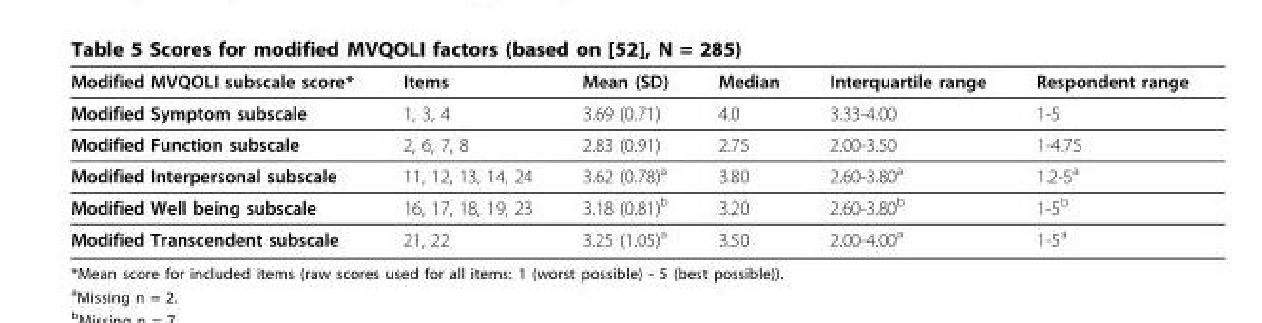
<table><thead><tr><td>Modified MVQOLI subscale score*</td><td>Items</td><td>Mean (SD)</td><td>Median</td><td>Interquartile range</td><td>Respondent range</td></tr></thead><tbody><tr><td>Modified Symptom subscale</td><td>1, 3, 4</td><td>3.69 (0.71)</td><td>4.0</td><td>3.33-4.00</td><td>1-5</td></tr><tr><td>Modified Function subscale</td><td>2, 6, 7, 8</td><td>2.83 (0.91)</td><td>2.75</td><td>2.00-3.50</td><td>1-4.75</td></tr><tr><td>Modified Interpersonal subscale</td><td>11, 12, 13, 14, 24</td><td>3.62 (0.78)<sup>a</sup></td><td>3.80</td><td>2.60-3.80<sup>a</sup></td><td>1.2-5<sup>a</sup></td></tr><tr><td>Modified Well being subscale</td><td>16, 17, 18, 19, 23</td><td>3.18 (0.81)<sup>b</sup></td><td>3.20</td><td>2.60-3.80<sup>b</sup></td><td>1-5<sup>b</sup></td></tr><tr><td>Modified Transcendent subscale</td><td>21, 22</td><td>3.25 (1.05)<sup>a</sup></td><td>3.50</td><td>2.00-4.00<sup>a</sup></td><td>1-5<sup>a</sup></td></tr></tbody></table>